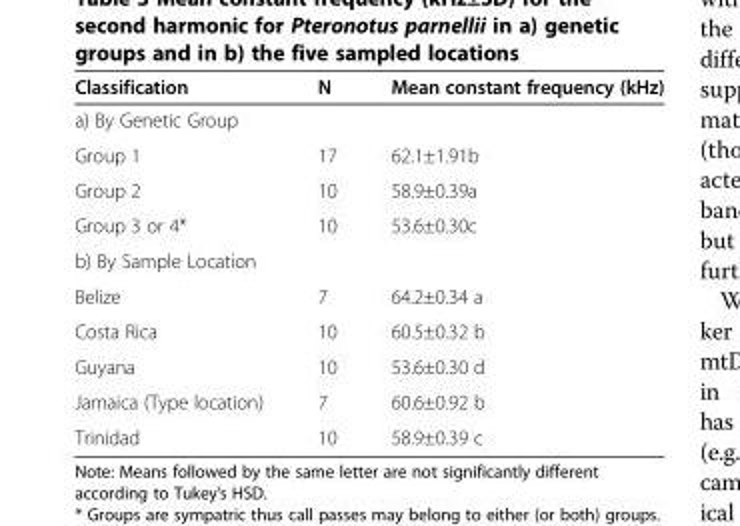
<table><thead><tr><td>Classification</td><td>N</td><td>Mean constant frequency (kHz)</td></tr></thead><tbody><tr><td colspan="3">a) By Genetic Group</td></tr><tr><td>Group 1</td><td>17</td><td>62.1±1.91b</td></tr><tr><td>Group 2</td><td>10</td><td>58.9±0.39a</td></tr><tr><td>Group 3 or 4*</td><td>10</td><td>53.6±0.30c</td></tr><tr><td colspan="3">b) By Sample Location</td></tr><tr><td>Belize</td><td>7</td><td>64.2±0.34 a</td></tr><tr><td>Costa Rica</td><td>10</td><td>60.5±0.32 b</td></tr><tr><td>Guyana</td><td>10</td><td>53.6±0.30 d</td></tr><tr><td>Jamaica (Type location)</td><td>7</td><td>60.6±0.92 b</td></tr><tr><td>Trinidad</td><td>10</td><td>58.9±0.39 c</td></tr></tbody></table>